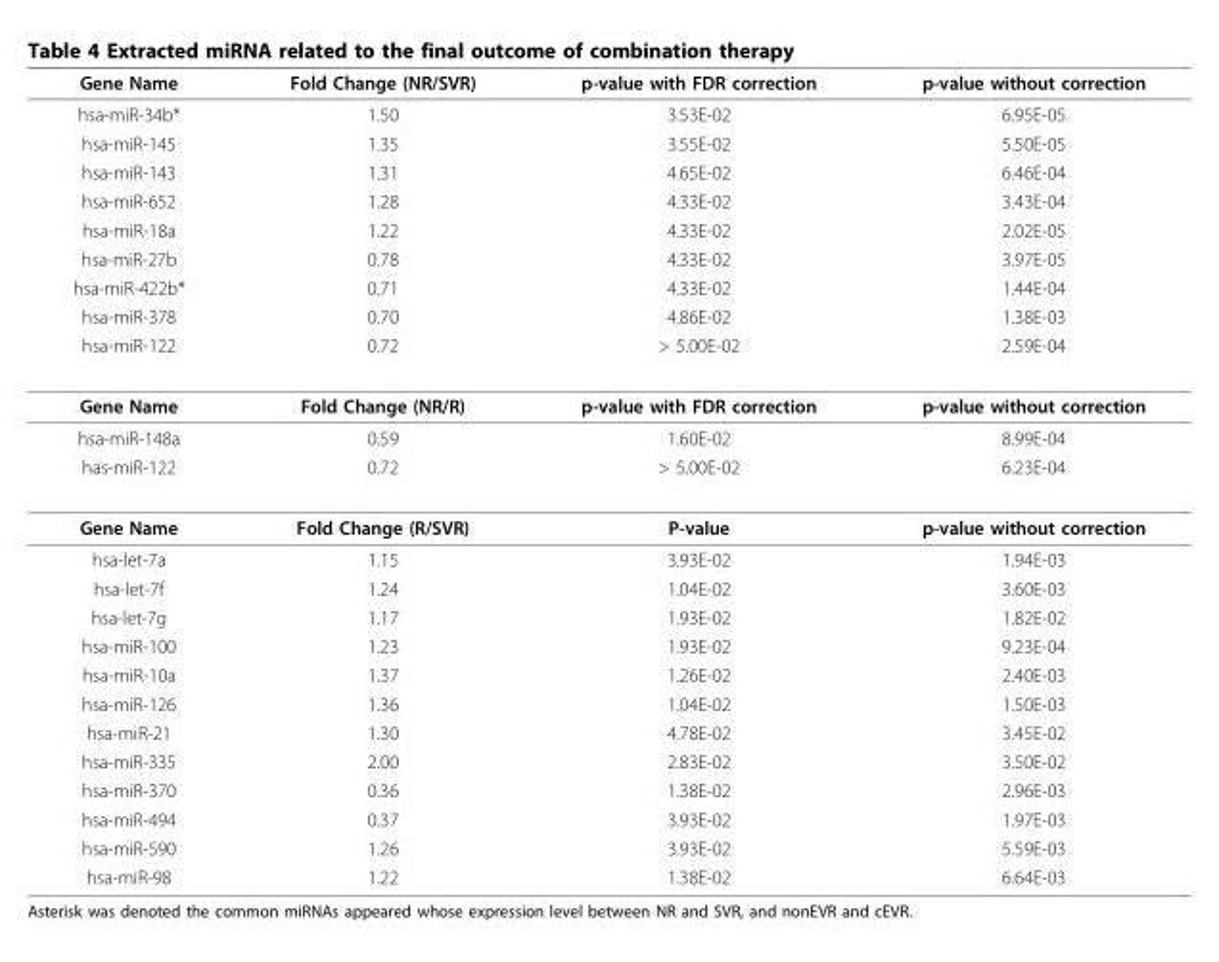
<table><thead><tr><td>Gene Name</td><td>Fold Change (NR/SVR)</td><td>p-value with FDR correction</td><td>p-value without correction</td></tr></thead><tbody><tr><td>hsa-miR-34b*</td><td>1.50</td><td>3.53E-02</td><td>6.95E-05</td></tr><tr><td>hsa-miR-145</td><td>1.35</td><td>3.55E-02</td><td>5.50E-05</td></tr><tr><td>hsa-miR-143</td><td>1.31</td><td>4.65E-02</td><td>6.46E-04</td></tr><tr><td>hsa-miR-652</td><td>1.28</td><td>4.33E-02</td><td>3.43E-04</td></tr><tr><td>hsa-miR-18a</td><td>1.22</td><td>4.33E-02</td><td>2.02E-05</td></tr><tr><td>hsa-miR-27b</td><td>0.78</td><td>4.33E-02</td><td>3.97E-05</td></tr><tr><td>hsa-miR-422b*</td><td>0.71</td><td>4.33E-02</td><td>1.44E-04</td></tr><tr><td>hsa-miR-378</td><td>0.70</td><td>4.86E-02</td><td>1.38E-03</td></tr><tr><td>hsa-miR-122</td><td>0.72</td><td>&gt; 5.00E-02</td><td>2.59E-04</td></tr><tr><td>Gene Name</td><td>Fold Change (NR/R)</td><td>p-value with FDR correction</td><td>p-value without correction</td></tr><tr><td>hsa-miR-148a</td><td>0.59</td><td>1.60E-02</td><td>8.99E-04</td></tr><tr><td>has-miR-122</td><td>0.72</td><td>&gt; 5.00E-02</td><td>6.23E-04</td></tr><tr><td>Gene Name</td><td>Fold Change (R/SVR)</td><td>P-value</td><td>p-value without correction</td></tr><tr><td>hsa-let-7a</td><td>1.15</td><td>3.93E-02</td><td>1.94E-03</td></tr><tr><td>hsa-let-7f</td><td>1.24</td><td>1.04E-02</td><td>3.60E-03</td></tr><tr><td>hsa-let-7g</td><td>1.17</td><td>1.93E-02</td><td>1.82E-02</td></tr><tr><td>hsa-miR-100</td><td>1.23</td><td>1.93E-02</td><td>9.23E-04</td></tr><tr><td>hsa-miR-10a</td><td>1.37</td><td>1.26E-02</td><td>2.40E-03</td></tr><tr><td>hsa-miR-126</td><td>1.36</td><td>1.04E-02</td><td>1.50E-03</td></tr><tr><td>hsa-miR-21</td><td>1.30</td><td>4.78E-02</td><td>3.45E-02</td></tr><tr><td>hsa-miR-335</td><td>2.00</td><td>2.83E-02</td><td>3.50E-02</td></tr><tr><td>hsa-miR-370</td><td>0.36</td><td>1.38E-02</td><td>2.96E-03</td></tr><tr><td>hsa-miR-494</td><td>0.37</td><td>3.93E-02</td><td>1.97E-03</td></tr><tr><td>hsa-miR-590</td><td>1.26</td><td>3.93E-02</td><td>5.59E-03</td></tr><tr><td>hsa-miR-98</td><td>1.22</td><td>1.38E-02</td><td>6.64E-03</td></tr></tbody></table>